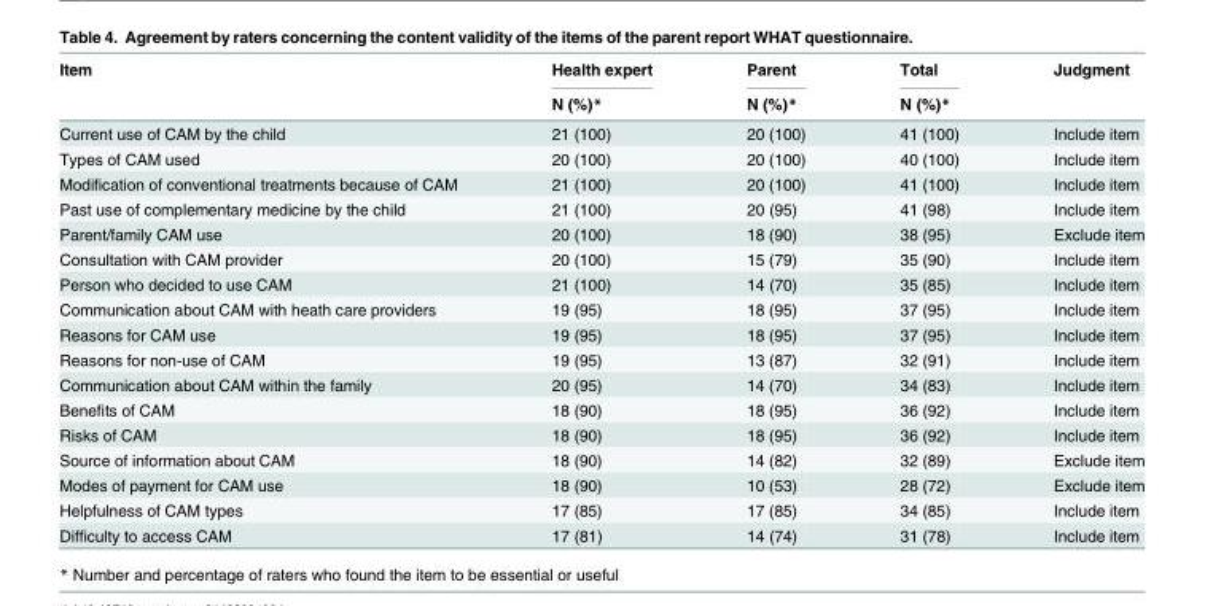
<table><thead><tr><td rowspan="2">Item</td><td rowspan="2">Health expert N (%)*</td><td rowspan="2">Parent N (%)*</td><td rowspan="2">Total N (%)*</td><td rowspan="2">Judgment</td></tr><tr></tr></thead><tbody><tr><td>Current use of CAM by the child</td><td>21 (100)</td><td>20 (100)</td><td>41 (100)</td><td>Include item</td></tr><tr><td>Types of CAM used</td><td>20 (100)</td><td>20 (100)</td><td>40 (100)</td><td>Include item</td></tr><tr><td>Modification of conventional treatments because of CAM</td><td>21 (100)</td><td>20 (100)</td><td>41 (100)</td><td>Include item</td></tr><tr><td>Past use of complementary medicine by the child</td><td>21 (100)</td><td>20 (95)</td><td>41 (98)</td><td>Include item</td></tr><tr><td>Parent/family CAM use</td><td>20 (100)</td><td>18 (90)</td><td>38 (95)</td><td>Exclude item</td></tr><tr><td>Consultation with CAM provider</td><td>20 (100)</td><td>15 (79)</td><td>35 (90)</td><td>Include item</td></tr><tr><td>Person who decided to use CAM</td><td>21 (100)</td><td>14 (70)</td><td>35 (85)</td><td>Include item</td></tr><tr><td>Communication about CAM with heath care providers</td><td>19 (95)</td><td>18 (95)</td><td>37 (95)</td><td>Include item</td></tr><tr><td>Reasons for CAM use</td><td>19 (95)</td><td>18 (95)</td><td>37 (95)</td><td>Include item</td></tr><tr><td>Reasons for non-use of CAM</td><td>19 (95)</td><td>13 (87)</td><td>32 (91)</td><td>Include item</td></tr><tr><td>Communication about CAM within the family</td><td>20 (95)</td><td>14 (70)</td><td>34 (83)</td><td>Include item</td></tr><tr><td>Benefits of CAM</td><td>18 (90)</td><td>18 (95)</td><td>36 (92)</td><td>Include item</td></tr><tr><td>Risks of CAM</td><td>18 (90)</td><td>18 (95)</td><td>36 (92)</td><td>Include item</td></tr><tr><td>Source of information about CAM</td><td>18 (90)</td><td>14 (82)</td><td>32 (89)</td><td>Exclude item</td></tr><tr><td>Modes of payment for CAM use</td><td>18 (90)</td><td>10 (53)</td><td>28 (72)</td><td>Exclude item</td></tr><tr><td>Helpfulness of CAM types</td><td>17 (85)</td><td>17 (85)</td><td>34 (85)</td><td>Include item</td></tr><tr><td>Difficulty to access CAM</td><td>17 (81)</td><td>14 (74)</td><td>31 (78)</td><td>Include item</td></tr></tbody></table>